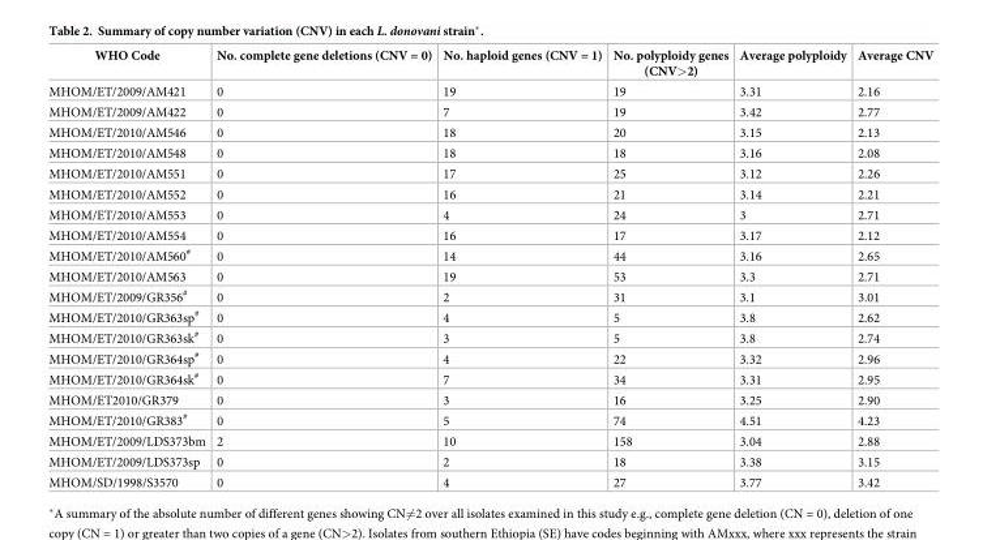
<table><thead><tr><td>WHO Code</td><td>No. complete gene deletions (CNV = 0)</td><td>No. haploid genes (CNV = 1)</td><td>No. polyploidy genes (CNV&gt;2)</td><td>Average polyploidy</td><td>Average CNV</td></tr></thead><tbody><tr><td>MHOM/ET/2009/AM421</td><td>0</td><td>19</td><td>19</td><td>3.31</td><td>2.16</td></tr><tr><td>MHOM/ET/2009/AM422</td><td>0</td><td>7</td><td>19</td><td>3.42</td><td>2.77</td></tr><tr><td>MHOM/ET/2010/AM546</td><td>0</td><td>18</td><td>20</td><td>3.15</td><td>2.13</td></tr><tr><td>MHOM/ET/2010/AM548</td><td>0</td><td>18</td><td>18</td><td>3.16</td><td>2.08</td></tr><tr><td>MHOM/ET/2010/AM551</td><td>0</td><td>17</td><td>25</td><td>3.12</td><td>2.26</td></tr><tr><td>MHOM/ET/2010/AM552</td><td>0</td><td>16</td><td>21</td><td>3.14</td><td>2.21</td></tr><tr><td>MHOM/ET/2010/AM553</td><td>0</td><td>4</td><td>24</td><td>3</td><td>2.71</td></tr><tr><td>MHOM/ET/2010/AM554</td><td>0</td><td>16</td><td>17</td><td>3.17</td><td>2.12</td></tr><tr><td>MHOM/ET/2010/AM560<sup>#</sup></td><td>0</td><td>14</td><td>44</td><td>3.16</td><td>2.65</td></tr><tr><td>MHOM/ET/2010/AM563</td><td>0</td><td>19</td><td>53</td><td>3.3</td><td>2.71</td></tr><tr><td>MHOM/ET/2009/GR356<sup>#</sup></td><td>0</td><td>2</td><td>31</td><td>3.1</td><td>3.01</td></tr><tr><td>MHOM/ET/2010/GR363sp<sup>#</sup></td><td>0</td><td>4</td><td>5</td><td>3.8</td><td>2.62</td></tr><tr><td>MHOM/ET/2010/GR363sk<sup>#</sup></td><td>0</td><td>3</td><td>5</td><td>3.8</td><td>2.74</td></tr><tr><td>MHOM/ET/2010/GR364sp<sup>#</sup></td><td>0</td><td>4</td><td>22</td><td>3.32</td><td>2.96</td></tr><tr><td>MHOM/ET/2010/GR364sk<sup>#</sup></td><td>0</td><td>7</td><td>34</td><td>3.31</td><td>2.95</td></tr><tr><td>MHOM/ET2010/GR379</td><td>0</td><td>3</td><td>16</td><td>3.25</td><td>2.90</td></tr><tr><td>MHOM/ET/2010/GR383<sup>#</sup></td><td>0</td><td>5</td><td>74</td><td>4.51</td><td>4.23</td></tr><tr><td>MHOM/ET/2009/LDS373bm</td><td>2</td><td>10</td><td>158</td><td>3.04</td><td>2.88</td></tr><tr><td>MHOM/ET/2009/LDS373sp</td><td>0</td><td>2</td><td>18</td><td>3.38</td><td>3.15</td></tr><tr><td>MHOM/SD/1998/S3570</td><td>0</td><td>4</td><td>27</td><td>3.77</td><td>3.42</td></tr></tbody></table>